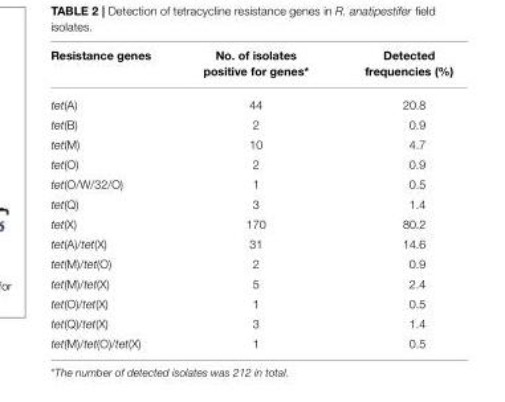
<table><thead><tr><td>Resistance genes</td><td>No. of isolates positive for genes*</td><td>Detected frequencies (%)</td></tr></thead><tbody><tr><td>tet(A)</td><td>44</td><td>20.8</td></tr><tr><td>tet(B)</td><td>2</td><td>0.9</td></tr><tr><td>tet(M)</td><td>10</td><td>4.7</td></tr><tr><td>tet(O)</td><td>2</td><td>0.9</td></tr><tr><td>tet(O/W/32/O)</td><td>1</td><td>0.5</td></tr><tr><td>tet(Q)</td><td>3</td><td>1.4</td></tr><tr><td>tet(X)</td><td>170</td><td>80.2</td></tr><tr><td>tet(A)/tet(X)</td><td>31</td><td>14.6</td></tr><tr><td>tet(M)/tet(O)</td><td>2</td><td>0.9</td></tr><tr><td>tet(M)/tet(X)</td><td>5</td><td>2.4</td></tr><tr><td>tet(O)/tet(X)</td><td>1</td><td>0.5</td></tr><tr><td>tet(Q)/tet(X)</td><td>3</td><td>1.4</td></tr><tr><td>tet(M)/tet(O)/tet(X)</td><td>1</td><td>0.5</td></tr></tbody></table>